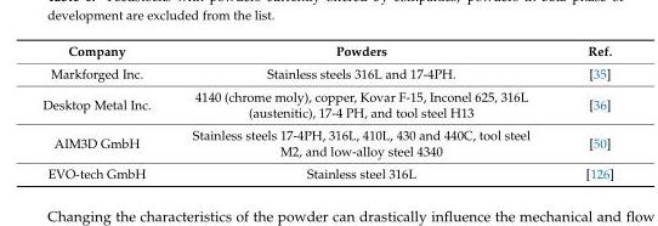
<table><thead><tr><td>Company</td><td>Powders</td><td>Ref.</td></tr></thead><tbody><tr><td>Markforged Inc.</td><td>Stainless steels 316L and 17-4PH.</td><td>[35]</td></tr><tr><td>Desktop Metal Inc.</td><td>4140 (chrome moly), copper, Kovar F-15, Inconel 625, 316L (austenitic), 17-4 PH, and tool steel H13</td><td>[36]</td></tr><tr><td>AIM3D GmbH</td><td>Stainless steels 17-4PH, 316L, 410L, 430 and 440C, tool steel M2, and low-alloy steel 4340</td><td>[50]</td></tr><tr><td>EVO-tech GmbH</td><td>Stainless steel 316L</td><td>[126]</td></tr></tbody></table>